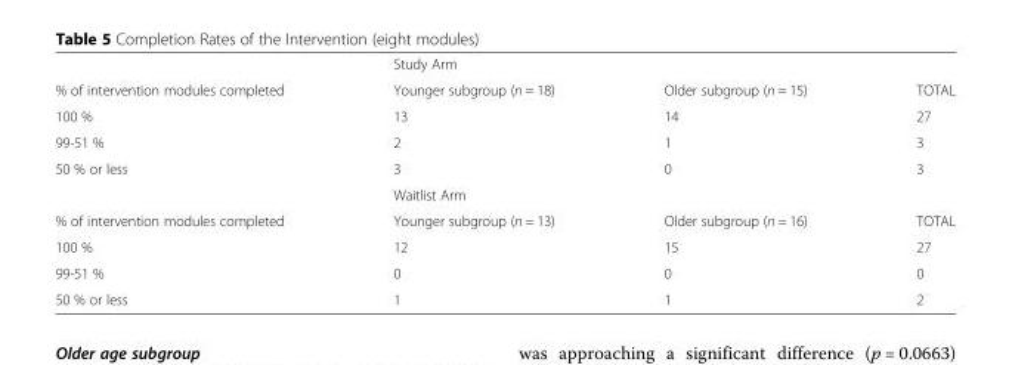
<table><thead><tr><td rowspan="2">% of intervention modules completed</td><td colspan="3">Study Arm</td></tr><tr><td>Younger subgroup (n = 18)</td><td>Older subgroup (n = 15)</td><td>TOTAL</td></tr></thead><tbody><tr><td>100 %</td><td>13</td><td>14</td><td>27</td></tr><tr><td>99-51 %</td><td>2</td><td>1</td><td>3</td></tr><tr><td rowspan="2">50 % or less</td><td>3</td><td>0</td><td>3</td></tr><tr><td colspan="3">Waitlist Arm</td></tr><tr><td>% of intervention modules completed</td><td>Younger subgroup (n = 13)</td><td>Older subgroup (n = 16)</td><td>TOTAL</td></tr><tr><td>100 %</td><td>12</td><td>15</td><td>27</td></tr><tr><td>99-51 %</td><td>0</td><td>0</td><td>0</td></tr><tr><td>50 % or less</td><td>1</td><td>1</td><td>2</td></tr></tbody></table>